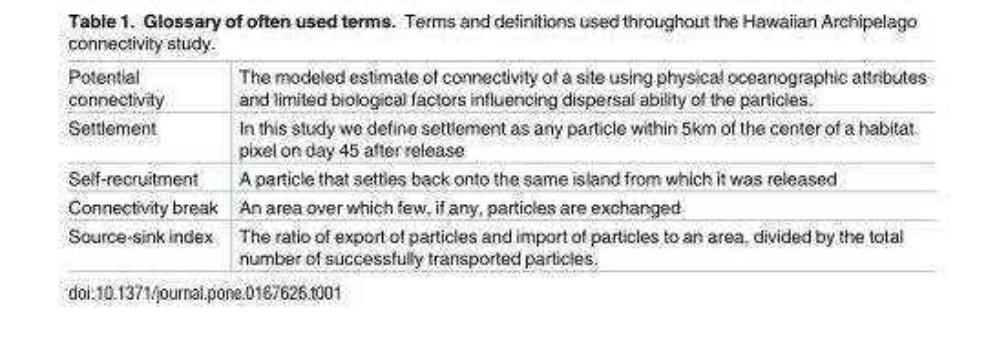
<table><tbody><tr><td>Potential connectivity</td><td>The modeled estimate of connectivity of a site using physical oceanographic attributes and limited biological factors influencing dispersal ability of the particles.</td></tr><tr><td>Settlement</td><td>In this study we define settlement as any particle within 5km of the center of a habitat pixel on day 45 after release</td></tr><tr><td>Self-recruitment</td><td>A particle that settles back onto the same island from which it was released</td></tr><tr><td>Connectivity break</td><td>An area over which few, if any, particles are exchanged</td></tr><tr><td>Source-sink index</td><td>The ratio of export of particles and import of particles to an area, divided by the total number of successfully transported particles.</td></tr></tbody></table>